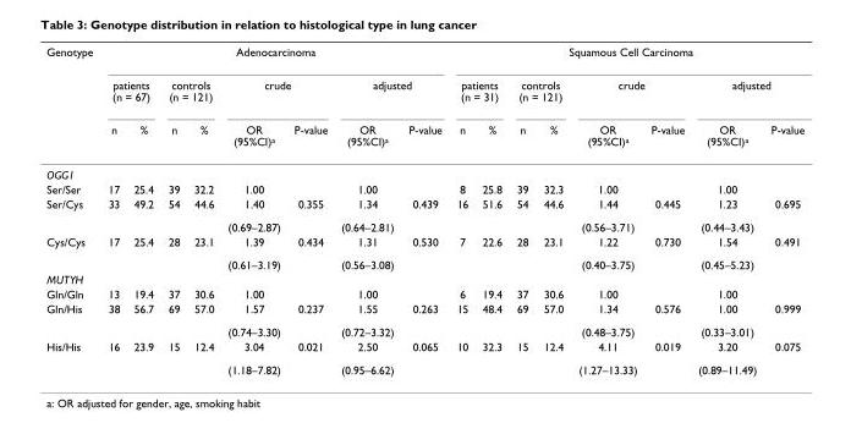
<table><thead><tr><td rowspan="3">Genotype</td><td colspan="8">Adenocarcinoma</td><td colspan="8">Squamous Cell Carcinoma</td></tr><tr><td colspan="2">patients (n = 67)</td><td colspan="2">controls (n = 121)</td><td colspan="2">crude</td><td colspan="2">adjusted</td><td colspan="2">patients (n = 31)</td><td colspan="2">controls (n = 121)</td><td colspan="2">crude</td><td colspan="2">adjusted</td></tr><tr><td>n</td><td>%</td><td>n</td><td>%</td><td>OR (95%CI)<sup>a</sup></td><td>P-value</td><td>OR (95%CI)<sup>a</sup></td><td>P-value</td><td>n</td><td>%</td><td>n</td><td>%</td><td>OR (95%CI)<sup>a</sup></td><td>P-value</td><td>OR (95%CI)<sup>a</sup></td><td>P-value</td></tr></thead><tbody><tr><td colspan="17">OGG1</td></tr><tr><td>Ser/Ser</td><td>17</td><td>25.4</td><td>39</td><td>32.2</td><td>1.00</td><td></td><td>1.00</td><td></td><td>8</td><td>25.8</td><td>39</td><td>32.3</td><td>1.00</td><td></td><td>1.00</td><td></td></tr><tr><td>Ser/Cys</td><td>33</td><td>49.2</td><td>54</td><td>44.6</td><td>1.40 (0.69–2.87)</td><td>0.355</td><td>1.34 (0.64–2.81)</td><td>0.439</td><td>16</td><td>51.6</td><td>54</td><td>44.6</td><td>1.44 (0.56–3.71)</td><td>0.445</td><td>1.23 (0.44–3.43)</td><td>0.695</td></tr><tr><td>Cys/Cys</td><td>17</td><td>25.4</td><td>28</td><td>23.1</td><td>1.39 (0.61–3.19)</td><td>0.434</td><td>1.31 (0.56–3.08)</td><td>0.530</td><td>7</td><td>22.6</td><td>28</td><td>23.1</td><td>1.22 (0.40–3.75)</td><td>0.730</td><td>1.54 (0.45–5.23)</td><td>0.491</td></tr><tr><td colspan="17">MUTYH</td></tr><tr><td>Gln/Gln</td><td>13</td><td>19.4</td><td>37</td><td>30.6</td><td>1.00</td><td></td><td>1.00</td><td></td><td>6</td><td>19.4</td><td>37</td><td>30.6</td><td>1.00</td><td></td><td>1.00</td><td></td></tr><tr><td>Gln/His</td><td>38</td><td>56.7</td><td>69</td><td>57.0</td><td>1.57 (0.74–3.30)</td><td>0.237</td><td>1.55 (0.72–3.32)</td><td>0.263</td><td>15</td><td>48.4</td><td>69</td><td>57.0</td><td>1.34 (0.48–3.75)</td><td>0.576</td><td>1.00 (0.33–3.01)</td><td>0.999</td></tr><tr><td>His/His</td><td>16</td><td>23.9</td><td>15</td><td>12.4</td><td>3.04 (1.18–7.82)</td><td>0.021</td><td>2.50 (0.95–6.62)</td><td>0.065</td><td>10</td><td>32.3</td><td>15</td><td>12.4</td><td>4.11 (1.27–13.33)</td><td>0.019</td><td>3.20 (0.89–11.49)</td><td>0.075</td></tr></tbody></table>